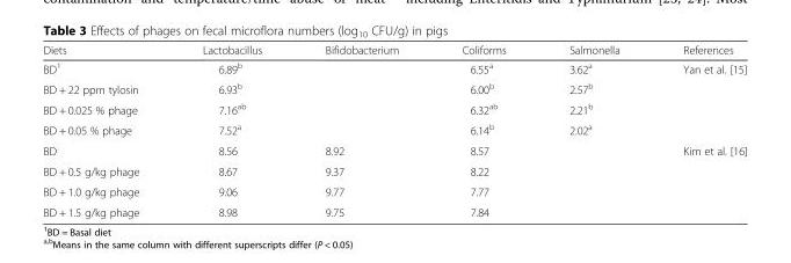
<table><thead><tr><td>Diets</td><td>Lactobacillus</td><td>Bifidobacterium</td><td>Coliforms</td><td>Salmonella</td><td>References</td></tr></thead><tbody><tr><td>BD<sup>1</sup></td><td>6.89<sup>b</sup></td><td></td><td>6.55<sup>a</sup></td><td>3.62<sup>a</sup></td><td rowspan="4">Yan et al. [15]</td></tr><tr><td>BD + 22 ppm tylosin</td><td>6.93<sup>b</sup></td><td></td><td>6.00<sup>b</sup></td><td>2.57<sup>b</sup></td></tr><tr><td>BD + 0.025 % phage</td><td>7.16<sup>ab</sup></td><td></td><td>6.32<sup>ab</sup></td><td>2.21<sup>b</sup></td></tr><tr><td>BD + 0.05 % phage</td><td>7.52<sup>a</sup></td><td></td><td>6.14<sup>b</sup></td><td>2.02<sup>a</sup></td></tr><tr><td>BD</td><td>8.56</td><td>8.92</td><td>8.57</td><td></td><td rowspan="4">Kim et al. [16]</td></tr><tr><td>BD + 0.5 g/kg phage</td><td>8.67</td><td>9.37</td><td>8.22</td><td></td></tr><tr><td>BD + 1.0 g/kg phage</td><td>9.06</td><td>9.77</td><td>7.77</td><td></td></tr><tr><td>BD + 1.5 g/kg phage</td><td>8.98</td><td>9.75</td><td>7.84</td><td></td></tr></tbody></table>